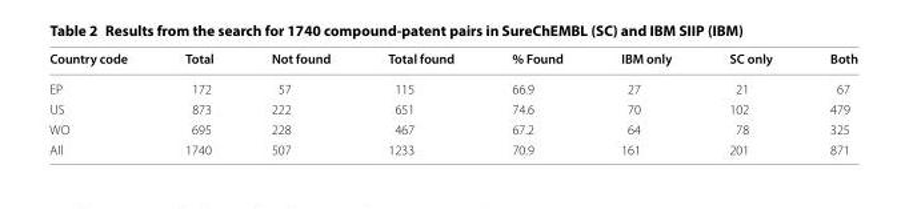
<table><thead><tr><td>Country code</td><td>Total</td><td>Not found</td><td>Total found</td><td>% Found</td><td>IBM only</td><td>SC only</td><td>Both</td></tr></thead><tbody><tr><td>EP</td><td>172</td><td>57</td><td>115</td><td>66.9</td><td>27</td><td>21</td><td>67</td></tr><tr><td>US</td><td>873</td><td>222</td><td>651</td><td>74.6</td><td>70</td><td>102</td><td>479</td></tr><tr><td>WO</td><td>695</td><td>228</td><td>467</td><td>67.2</td><td>64</td><td>78</td><td>325</td></tr><tr><td>All</td><td>1740</td><td>507</td><td>1233</td><td>70.9</td><td>161</td><td>201</td><td>871</td></tr></tbody></table>